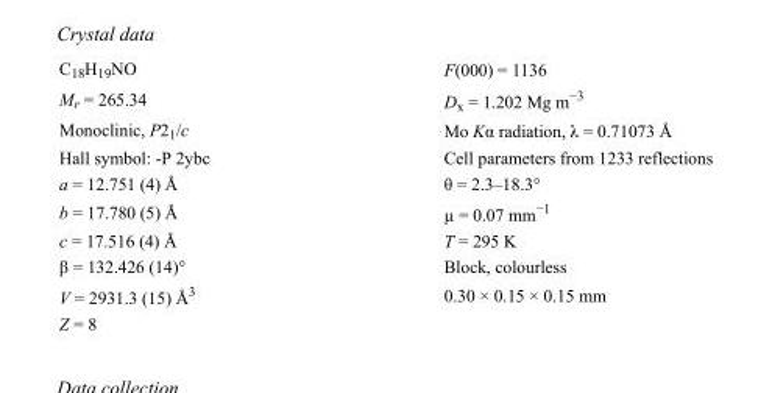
<table><tbody><tr><td>C<sub>18</sub>H<sub>19</sub>NO</td><td>F(000) = 1136</td></tr><tr><td>M<sub>r</sub> = 265.34</td><td>D<sub>x</sub> = 1.202 Mg m<sup>−3</sup></td></tr><tr><td>Monoclinic, P2<sub>1</sub>/c</td><td>Mo Kα radiation, λ = 0.71073 Å</td></tr><tr><td>Hall symbol: -P 2ybc</td><td>Cell parameters from 1233 reflections</td></tr><tr><td>a = 12.751 (4) Å</td><td>θ = 2.3–18.3°</td></tr><tr><td>b = 17.780 (5) Å</td><td>µ = 0.07 mm<sup>−1</sup></td></tr><tr><td>c = 17.516 (4) Å</td><td>T = 295 K</td></tr><tr><td>β = 132.426 (14)°</td><td>Block, colourless</td></tr><tr><td>V = 2931.3 (15) Å<sup>3</sup></td><td>0.30 × 0.15 × 0.15 mm</td></tr><tr><td>Z = 8</td><td></td></tr></tbody></table>